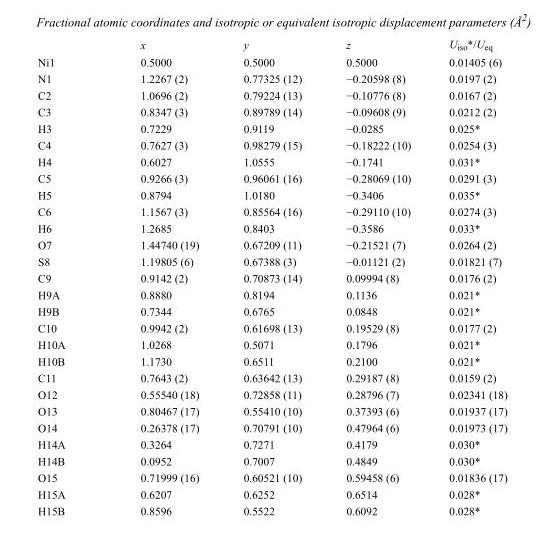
<table><thead><tr><td></td><td>x</td><td>y</td><td>z</td><td>U<sub>iso</sub>*/U<sub>eq</sub></td></tr></thead><tbody><tr><td>Ni1</td><td>0.5000</td><td>0.5000</td><td>0.5000</td><td>0.01405 (6)</td></tr><tr><td>N1</td><td>1.2267 (2)</td><td>0.77325 (12)</td><td>−0.20598 (8)</td><td>0.0197 (2)</td></tr><tr><td>C2</td><td>1.0696 (2)</td><td>0.79224 (13)</td><td>−0.10776 (8)</td><td>0.0167 (2)</td></tr><tr><td>C3</td><td>0.8347 (3)</td><td>0.89789 (14)</td><td>−0.09608 (9)</td><td>0.0212 (2)</td></tr><tr><td>H3</td><td>0.7229</td><td>0.9119</td><td>−0.0285</td><td>0.025*</td></tr><tr><td>C4</td><td>0.7627 (3)</td><td>0.98279 (15)</td><td>−0.18222 (10)</td><td>0.0254 (3)</td></tr><tr><td>H4</td><td>0.6027</td><td>1.0555</td><td>−0.1741</td><td>0.031*</td></tr><tr><td>C5</td><td>0.9266 (3)</td><td>0.96061 (16)</td><td>−0.28069 (10)</td><td>0.0291 (3)</td></tr><tr><td>H5</td><td>0.8794</td><td>1.0180</td><td>−0.3406</td><td>0.035*</td></tr><tr><td>C6</td><td>1.1567 (3)</td><td>0.85564 (16)</td><td>−0.29110 (10)</td><td>0.0274 (3)</td></tr><tr><td>H6</td><td>1.2685</td><td>0.8403</td><td>−0.3586</td><td>0.033*</td></tr><tr><td>O7</td><td>1.44740 (19)</td><td>0.67209 (11)</td><td>−0.21521 (7)</td><td>0.0264 (2)</td></tr><tr><td>S8</td><td>1.19805 (6)</td><td>0.67388 (3)</td><td>−0.01121 (2)</td><td>0.01821 (7)</td></tr><tr><td>C9</td><td>0.9142 (2)</td><td>0.70873 (14)</td><td>0.09994 (8)</td><td>0.0176 (2)</td></tr><tr><td>H9A</td><td>0.8880</td><td>0.8194</td><td>0.1136</td><td>0.021*</td></tr><tr><td>H9B</td><td>0.7344</td><td>0.6765</td><td>0.0848</td><td>0.021*</td></tr><tr><td>C10</td><td>0.9942 (2)</td><td>0.61698 (13)</td><td>0.19529 (8)</td><td>0.0177 (2)</td></tr><tr><td>H10A</td><td>1.0268</td><td>0.5071</td><td>0.1796</td><td>0.021*</td></tr><tr><td>H10B</td><td>1.1730</td><td>0.6511</td><td>0.2100</td><td>0.021*</td></tr><tr><td>C11</td><td>0.7643 (2)</td><td>0.63642 (13)</td><td>0.29187 (8)</td><td>0.0159 (2)</td></tr><tr><td>O12</td><td>0.55540 (18)</td><td>0.72858 (11)</td><td>0.28796 (7)</td><td>0.02341 (18)</td></tr><tr><td>O13</td><td>0.80467 (17)</td><td>0.55410 (10)</td><td>0.37393 (6)</td><td>0.01937 (17)</td></tr><tr><td>O14</td><td>0.26378 (17)</td><td>0.70791 (10)</td><td>0.47964 (6)</td><td>0.01973 (17)</td></tr><tr><td>H14A</td><td>0.3264</td><td>0.7271</td><td>0.4179</td><td>0.030*</td></tr><tr><td>H14B</td><td>0.0952</td><td>0.7007</td><td>0.4849</td><td>0.030*</td></tr><tr><td>O15</td><td>0.71999 (16)</td><td>0.60521 (10)</td><td>0.59458 (6)</td><td>0.01836 (17)</td></tr><tr><td>H15A</td><td>0.6207</td><td>0.6252</td><td>0.6514</td><td>0.028*</td></tr><tr><td>H15B</td><td>0.8596</td><td>0.5522</td><td>0.6092</td><td>0.028*</td></tr></tbody></table>